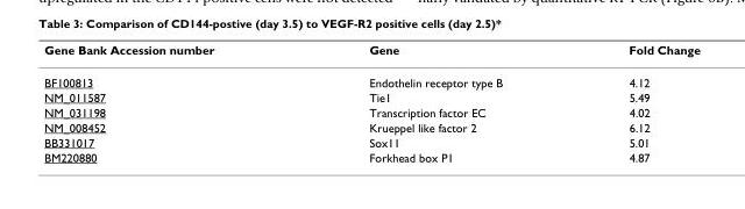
<table><thead><tr><td>Gene Bank Accession number</td><td>Gene</td><td>Fold Change</td></tr></thead><tbody><tr><td>BF100813</td><td>Endothelin receptor type B</td><td>4.12</td></tr><tr><td>NM_011587</td><td>Tie1</td><td>5.49</td></tr><tr><td>NM_031198</td><td>Transcription factor EC</td><td>4.02</td></tr><tr><td>NM_008452</td><td>Krueppel like factor 2</td><td>6.12</td></tr><tr><td>BB331017</td><td>Sox11</td><td>5.01</td></tr><tr><td>BM220880</td><td>Forkhead box P1</td><td>4.87</td></tr></tbody></table>